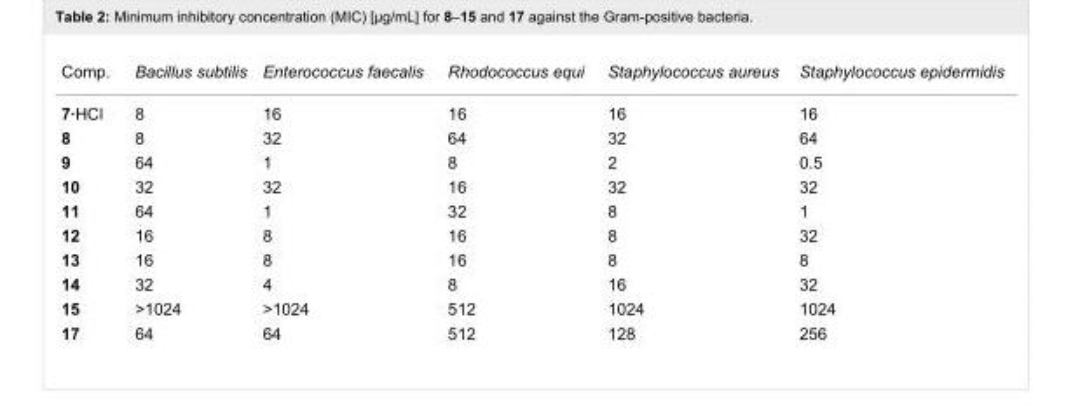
<table><tbody><tr><td>Comp.</td><td>Bacillus subtilis</td><td>Enterococcus faecalis</td><td>Rhodococcus equi</td><td>Staphylococcus aureus</td><td>Staphylococcus epidermidis</td></tr><tr><td>7·HCl</td><td>8</td><td>16</td><td>16</td><td>16</td><td>16</td></tr><tr><td>8</td><td>8</td><td>32</td><td>64</td><td>32</td><td>64</td></tr><tr><td>9</td><td>64</td><td>1</td><td>8</td><td>2</td><td>0.5</td></tr><tr><td>10</td><td>32</td><td>32</td><td>16</td><td>32</td><td>32</td></tr><tr><td>11</td><td>64</td><td>1</td><td>32</td><td>8</td><td>1</td></tr><tr><td>12</td><td>16</td><td>8</td><td>16</td><td>8</td><td>32</td></tr><tr><td>13</td><td>16</td><td>8</td><td>16</td><td>8</td><td>8</td></tr><tr><td>14</td><td>32</td><td>4</td><td>8</td><td>16</td><td>32</td></tr><tr><td>15</td><td>&gt;1024</td><td>&gt;1024</td><td>512</td><td>1024</td><td>1024</td></tr><tr><td>17</td><td>64</td><td>64</td><td>512</td><td>128</td><td>256</td></tr></tbody></table>